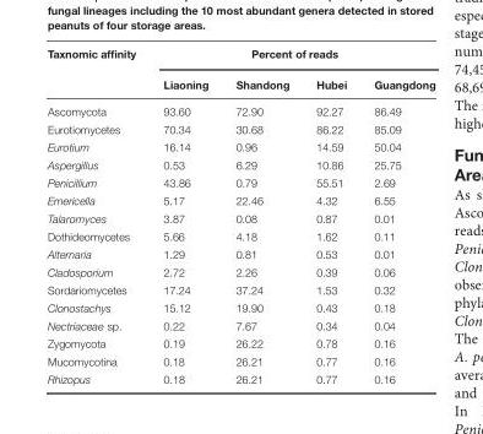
<table><thead><tr><td rowspan="2">Taxnomic affinity</td><td colspan="4">Percent of reads</td></tr><tr><td>Liaoning</td><td>Shandong</td><td>Hubei</td><td>Guangdong</td></tr></thead><tbody><tr><td>Ascomycota</td><td>93.60</td><td>72.90</td><td>92.27</td><td>86.49</td></tr><tr><td>Eurotiomycetes</td><td>70.34</td><td>30.68</td><td>86.22</td><td>85.09</td></tr><tr><td>Eurotium</td><td>16.14</td><td>0.96</td><td>14.59</td><td>50.04</td></tr><tr><td>Aspergillus</td><td>0.53</td><td>6.29</td><td>10.86</td><td>25.75</td></tr><tr><td>Penicillium</td><td>43.86</td><td>0.79</td><td>55.51</td><td>2.69</td></tr><tr><td>Emericella</td><td>5.17</td><td>22.46</td><td>4.32</td><td>6.55</td></tr><tr><td>Talaromyces</td><td>3.87</td><td>0.08</td><td>0.87</td><td>0.01</td></tr><tr><td>Dothideomycetes</td><td>5.66</td><td>4.18</td><td>1.62</td><td>0.11</td></tr><tr><td>Alternaria</td><td>1.29</td><td>0.81</td><td>0.53</td><td>0.01</td></tr><tr><td>Cladosporium</td><td>2.72</td><td>2.26</td><td>0.39</td><td>0.06</td></tr><tr><td>Sordariomycetes</td><td>17.24</td><td>37.24</td><td>1.53</td><td>0.32</td></tr><tr><td>Clonostachys</td><td>15.12</td><td>19.90</td><td>0.43</td><td>0.18</td></tr><tr><td>Nectriaceae sp.</td><td>0.22</td><td>7.67</td><td>0.34</td><td>0.04</td></tr><tr><td>Zygomycota</td><td>0.19</td><td>26.22</td><td>0.78</td><td>0.16</td></tr><tr><td>Mucomycotina</td><td>0.18</td><td>26.21</td><td>0.77</td><td>0.16</td></tr><tr><td>Rhizopus</td><td>0.18</td><td>26.21</td><td>0.77</td><td>0.16</td></tr></tbody></table>